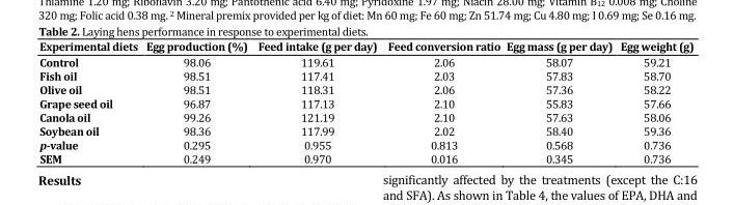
<table><thead><tr><td>Experimental diets</td><td>Egg production (%)</td><td>Feed intake (g per day)</td><td>Feed conversion ratio</td><td>Egg mass (g per day)</td><td>Egg weight (g)</td></tr></thead><tbody><tr><td>Control</td><td>98.06</td><td>119.61</td><td>2.06</td><td>58.07</td><td>59.21</td></tr><tr><td>Fish oil</td><td>98.51</td><td>117.41</td><td>2.03</td><td>57.83</td><td>58.70</td></tr><tr><td>Olive oil</td><td>98.51</td><td>118.31</td><td>2.06</td><td>57.36</td><td>58.22</td></tr><tr><td>Grape seed oil</td><td>96.87</td><td>117.13</td><td>2.10</td><td>55.83</td><td>57.66</td></tr><tr><td>Canola oil</td><td>99.26</td><td>121.19</td><td>2.10</td><td>57.63</td><td>58.06</td></tr><tr><td>Soybean oil</td><td>98.36</td><td>117.99</td><td>2.02</td><td>58.40</td><td>59.36</td></tr><tr><td>p-value</td><td>0.295</td><td>0.955</td><td>0.813</td><td>0.568</td><td>0.736</td></tr><tr><td>SEM</td><td>0.249</td><td>0.970</td><td>0.016</td><td>0.345</td><td>0.736</td></tr></tbody></table>